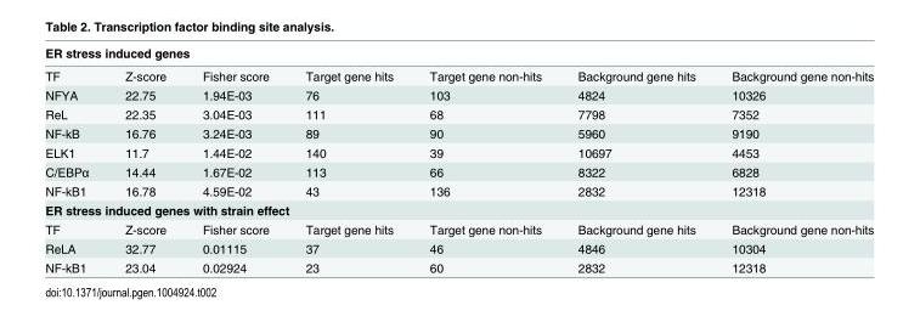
<table><thead><tr><td colspan="7">ER stress induced genes</td></tr><tr><td>TF</td><td>Z-score</td><td>Fisher score</td><td>Target gene hits</td><td>Target gene non-hits</td><td>Background gene hits</td><td>Background gene non-hits</td></tr></thead><tbody><tr><td>NFYA</td><td>22.75</td><td>1.94E-03</td><td>76</td><td>103</td><td>4824</td><td>10326</td></tr><tr><td>ReL</td><td>22.35</td><td>3.04E-03</td><td>111</td><td>68</td><td>7798</td><td>7352</td></tr><tr><td>NF-kB</td><td>16.76</td><td>3.24E-03</td><td>89</td><td>90</td><td>5960</td><td>9190</td></tr><tr><td>ELK1</td><td>11.7</td><td>1.44E-02</td><td>140</td><td>39</td><td>10697</td><td>4453</td></tr><tr><td>C/EBPα</td><td>14.44</td><td>1.67E-02</td><td>113</td><td>66</td><td>8322</td><td>6828</td></tr><tr><td>NF-kB1</td><td>16.78</td><td>4.59E-02</td><td>43</td><td>136</td><td>2832</td><td>12318</td></tr><tr><td colspan="7">ER stress induced genes with strain effect</td></tr><tr><td>TF</td><td>Z-score</td><td>Fisher score</td><td>Target gene hits</td><td>Target gene non-hits</td><td>Background gene hits</td><td>Background gene non-hits</td></tr><tr><td>ReLA</td><td>32.77</td><td>0.01115</td><td>37</td><td>46</td><td>4846</td><td>10304</td></tr><tr><td>NF-kB1</td><td>23.04</td><td>0.02924</td><td>23</td><td>60</td><td>2832</td><td>12318</td></tr></tbody></table>